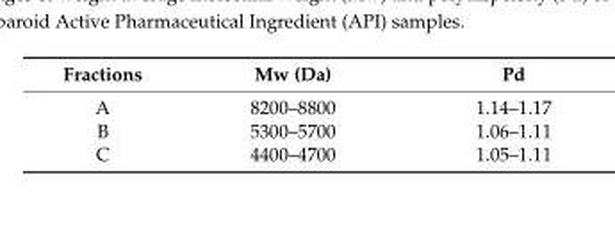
<table><thead><tr><td>Fractions</td><td>Mw (Da)</td><td>Pd</td></tr></thead><tbody><tr><td>A</td><td>8200–8800</td><td>1.14–1.17</td></tr><tr><td>B</td><td>5300–5700</td><td>1.06–1.11</td></tr><tr><td>C</td><td>4400–4700</td><td>1.05–1.11</td></tr></tbody></table>